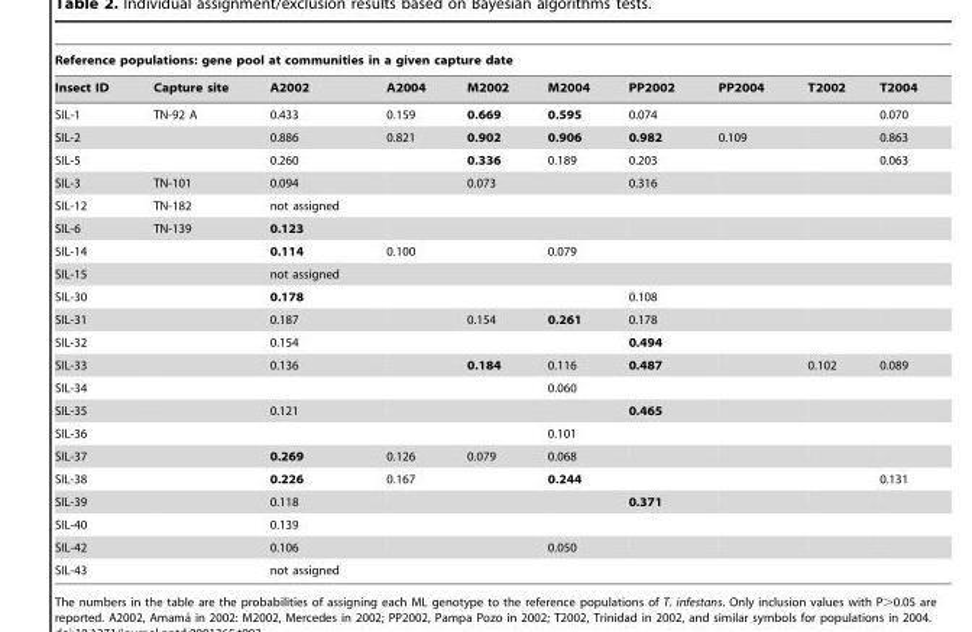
<table><thead><tr><td colspan="10">Reference populations: gene pool at communities in a given capture date</td></tr><tr><td>Insect ID</td><td>Capture site</td><td>A2002</td><td>A2004</td><td>M2002</td><td>M2004</td><td>PP2002</td><td>PP2004</td><td>T2002</td><td>T2004</td></tr></thead><tbody><tr><td>SIL-1</td><td>TN-92 A</td><td>0.433</td><td>0.159</td><td>0.669</td><td>0.595</td><td>0.074</td><td></td><td></td><td>0.070</td></tr><tr><td>SIL-2</td><td></td><td>0.886</td><td>0.821</td><td>0.902</td><td>0.906</td><td>0.982</td><td>0.109</td><td></td><td>0.863</td></tr><tr><td>SIL-5</td><td></td><td>0.260</td><td></td><td>0.336</td><td>0.189</td><td>0.203</td><td></td><td></td><td>0.063</td></tr><tr><td>SIL-3</td><td>TN-101</td><td>0.094</td><td></td><td>0.073</td><td></td><td>0.316</td><td></td><td></td><td></td></tr><tr><td>SIL-12</td><td>TN-182</td><td colspan="8">not assigned</td></tr><tr><td>SIL-6</td><td>TN-139</td><td>0.123</td><td></td><td></td><td></td><td></td><td></td><td></td><td></td></tr><tr><td>SIL-14</td><td></td><td>0.114</td><td>0.100</td><td></td><td>0.079</td><td></td><td></td><td></td><td></td></tr><tr><td>SIL-15</td><td></td><td colspan="8">not assigned</td></tr><tr><td>SIL-30</td><td></td><td>0.178</td><td></td><td></td><td></td><td>0.108</td><td></td><td></td><td></td></tr><tr><td>SIL-31</td><td></td><td>0.187</td><td></td><td>0.154</td><td>0.261</td><td>0.178</td><td></td><td></td><td></td></tr><tr><td>SIL-32</td><td></td><td>0.154</td><td></td><td></td><td></td><td>0.494</td><td></td><td></td><td></td></tr><tr><td>SIL-33</td><td></td><td>0.136</td><td></td><td>0.184</td><td>0.116</td><td>0.487</td><td></td><td>0.102</td><td>0.089</td></tr><tr><td>SIL-34</td><td></td><td></td><td></td><td></td><td>0.060</td><td></td><td></td><td></td><td></td></tr><tr><td>SIL-35</td><td></td><td>0.121</td><td></td><td></td><td></td><td>0.465</td><td></td><td></td><td></td></tr><tr><td>SIL-36</td><td></td><td></td><td></td><td></td><td>0.101</td><td></td><td></td><td></td><td></td></tr><tr><td>SIL-37</td><td></td><td>0.269</td><td>0.126</td><td>0.079</td><td>0.068</td><td></td><td></td><td></td><td></td></tr><tr><td>SIL-38</td><td></td><td>0.226</td><td>0.167</td><td></td><td>0.244</td><td></td><td></td><td></td><td>0.131</td></tr><tr><td>SIL-39</td><td></td><td>0.118</td><td></td><td></td><td></td><td>0.371</td><td></td><td></td><td></td></tr><tr><td>SIL-40</td><td></td><td>0.139</td><td></td><td></td><td></td><td></td><td></td><td></td><td></td></tr><tr><td>SIL-42</td><td></td><td>0.106</td><td></td><td></td><td>0.050</td><td></td><td></td><td></td><td></td></tr><tr><td>SIL-43</td><td></td><td colspan="8">not assigned</td></tr></tbody></table>